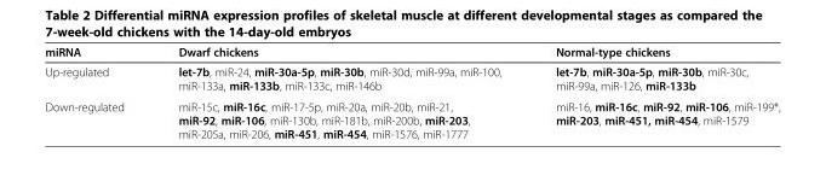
<table><thead><tr><td>miRNA</td><td>Dwarf chickens</td><td>Normal-type chickens</td></tr></thead><tbody><tr><td>Up-regulated</td><td>let-7b, miR-24, miR-30a-5p, miR-30b, miR-30d, miR-99a, miR-100, miR-133a, miR-133b, miR-133c, miR-146b</td><td>let-7b, miR-30a-5p, miR-30b, miR-30c, miR-99a, miR-126, miR-133b</td></tr><tr><td>Down-regulated</td><td>miR-15c, miR-16c, miR-17-5p, miR-20a, miR-20b, miR-21, miR-92, miR-106, miR-130b, miR-181b, miR-200b, miR-203, miR-205a, miR-206, miR-451, miR-454, miR-1576, miR-1777</td><td>miR-16, miR-16c, miR-92, miR-106, miR-199*, miR-203, miR-451, miR-454, miR-1579</td></tr></tbody></table>